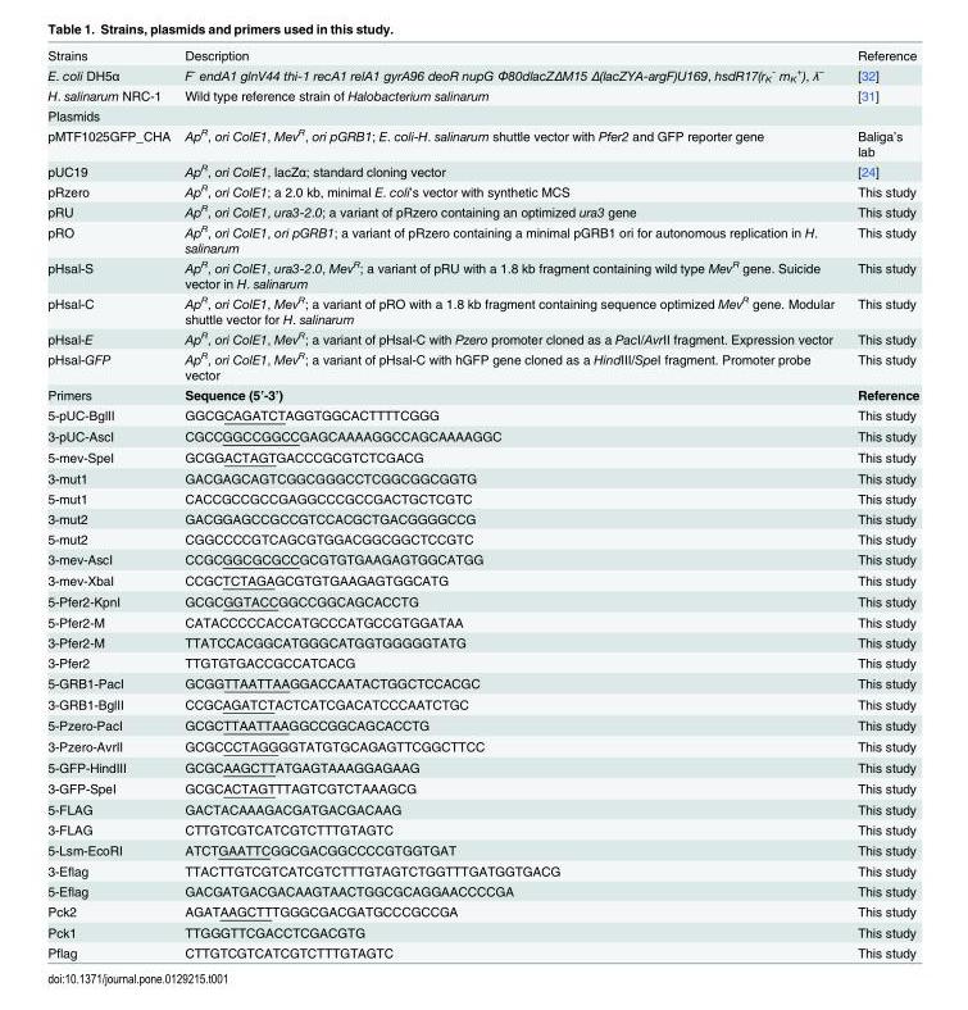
<table><tbody><tr><td>Strains</td><td>Description</td><td>Reference</td></tr><tr><td>E. coli DH5α</td><td>F<sup>-</sup> endA1 glnV44 thi-1 recA1 relA1 gyrA96 deoR nupG Φ80dlacZΔM15 Δ(lacZYA-argF)U169, hsdR17(r<sub>K</sub> <sup>-</sup> m<sub>K</sub> <sup>+</sup>), λ<sup>–</sup></td><td>[32]</td></tr><tr><td>H. salinarum NRC-1</td><td>Wild type reference strain of Halobacterium salinarum</td><td>[31]</td></tr><tr><td colspan="3">Plasmids</td></tr><tr><td>pMTF1025GFP_CHA</td><td>Ap<sup>R</sup>, ori ColE1, Mev<sup>R</sup>, ori pGRB1; E. coli-H. salinarum shuttle vector with Pfer2 and GFP reporter gene</td><td>Baliga’s lab</td></tr><tr><td>pUC19</td><td>Ap<sup>R</sup>, ori ColE1, lacZα; standard cloning vector</td><td>[24]</td></tr><tr><td>pRzero</td><td>Ap<sup>R</sup>, ori ColE1; a 2.0 kb, minimal E. coli’s vector with synthetic MCS</td><td>This study</td></tr><tr><td>pRU</td><td>Ap<sup>R</sup>, ori ColE1, ura3-2.0; a variant of pRzero containing an optimized ura3 gene</td><td>This study</td></tr><tr><td>pRO</td><td>Ap<sup>R</sup>, ori ColE1, ori pGRB1; a variant of pRzero containing a minimal pGRB1 ori for autonomous replication in H. salinarum</td><td>This study</td></tr><tr><td>pHsal-S</td><td>Ap<sup>R</sup>, ori ColE1, ura3-2.0, Mev<sup>R</sup>; a variant of pRU with a 1.8 kb fragment containing wild type Mev<sup>R</sup> gene. Suicide vector in H. salinarum</td><td>This study</td></tr><tr><td>pHsal-C</td><td>Ap<sup>R</sup>, ori ColE1, Mev<sup>R</sup>; a variant of pRO with a 1.8 kb fragment containing sequence optimized Mev<sup>R</sup> gene. Modular shuttle vector for H. salinarum</td><td>This study</td></tr><tr><td>pHsal-E</td><td>Ap<sup>R</sup>, ori ColE1, Mev<sup>R</sup>; a variant of pHsal-C with Pzero promoter cloned as a PacI/AvrII fragment. Expression vector</td><td>This study</td></tr><tr><td>pHsal-GFP</td><td>Ap<sup>R</sup>, ori ColE1, Mev<sup>R</sup>; a variant of pHsal-C with hGFP gene cloned as a HindIII/SpeI fragment. Promoter probe vector</td><td>This study</td></tr><tr><td>Primers</td><td>Sequence (5’-3’)</td><td>Reference</td></tr><tr><td>5-pUC-BglII</td><td>GGCGCAGATCTAGGTGGCACTTTTCGGG</td><td>This study</td></tr><tr><td>3-pUC-AscI</td><td>CGCCGGCCGGCCGAGCAAAAGGCCAGCAAAAGGC</td><td>This study</td></tr><tr><td>5-mev-SpeI</td><td>GCGGACTAGTGACCCGCGTCTCGACG</td><td>This study</td></tr><tr><td>3-mut1</td><td>GACGAGCAGTCGGCGGGCCTCGGCGGCGGTG</td><td>This study</td></tr><tr><td>5-mut1</td><td>CACCGCCGCCGAGGCCCGCCGACTGCTCGTC</td><td>This study</td></tr><tr><td>3-mut2</td><td>GACGGAGCCGCCGTCCACGCTGACGGGGCCG</td><td>This study</td></tr><tr><td>5-mut2</td><td>CGGCCCCGTCAGCGTGGACGGCGGCTCCGTC</td><td>This study</td></tr><tr><td>3-mev-AscI</td><td>CCGCGGCGCGCCGCGTGTGAAGAGTGGCATGG</td><td>This study</td></tr><tr><td>3-mev-XbaI</td><td>CCGCTCTAGAGCGTGTGAAGAGTGGCATG</td><td>This study</td></tr><tr><td>5-Pfer2-KpnI</td><td>GCGCGGTACCGGCCGGCAGCACCTG</td><td>This study</td></tr><tr><td>5-Pfer2-M</td><td>CATACCCCCACCATGCCCATGCCGTGGATAA</td><td>This study</td></tr><tr><td>3-Pfer2-M</td><td>TTATCCACGGCATGGGCATGGTGGGGGTATG</td><td>This study</td></tr><tr><td>3-Pfer2</td><td>TTGTGTGACCGCCATCACG</td><td>This study</td></tr><tr><td>5-GRB1-PacI</td><td>GCGGTTAATTAAGGACCAATACTGGCTCCACGC</td><td>This study</td></tr><tr><td>3-GRB1-BglII</td><td>CCGCAGATCTACTCATCGACATCCCAATCTGC</td><td>This study</td></tr><tr><td>5-Pzero-PacI</td><td>GCGCTTAATTAAGGCCGGCAGCACCTG</td><td>This study</td></tr><tr><td>3-Pzero-AvrII</td><td>GCGCCCTAGGGGTATGTGCAGAGTTCGGCTTCC</td><td>This study</td></tr><tr><td>5-GFP-HindIII</td><td>GCGCAAGCTTATGAGTAAAGGAGAAG</td><td>This study</td></tr><tr><td>3-GFP-SpeI</td><td>GCGCACTAGTTTAGTCGTCTAAAGCG</td><td>This study</td></tr><tr><td>5-FLAG</td><td>GACTACAAAGACGATGACGACAAG</td><td>This study</td></tr><tr><td>3-FLAG</td><td>CTTGTCGTCATCGTCTTTGTAGTC</td><td>This study</td></tr><tr><td>5-Lsm-EcoRI</td><td>ATCTGAATTCGGCGACGGCCCCGTGGTGAT</td><td>This study</td></tr><tr><td>3-Eflag</td><td>TTACTTGTCGTCATCGTCTTTGTAGTCTGGTTTGATGGTGACG</td><td>This study</td></tr><tr><td>5-Eflag</td><td>GACGATGACGACAAGTAACTGGCGCAGGAACCCCGA</td><td>This study</td></tr><tr><td>Pck2</td><td>AGATAAGCTTTGGGCGACGATGCCCGCCGA</td><td>This study</td></tr><tr><td>Pck1</td><td>TTGGGTTCGACCTCGACGTG</td><td>This study</td></tr><tr><td>Pflag</td><td>CTTGTCGTCATCGTCTTTGTAGTC</td><td>This study</td></tr></tbody></table>